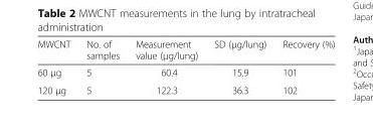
<table><thead><tr><td>MWCNT</td><td>No. of samples</td><td>Measurement value (μg/lung)</td><td>SD (μg/lung)</td><td>Recovery (%)</td></tr></thead><tbody><tr><td>60 μg</td><td>5</td><td>60.4</td><td>15.9</td><td>101</td></tr><tr><td>120 μg</td><td>5</td><td>122.3</td><td>36.3</td><td>102</td></tr></tbody></table>